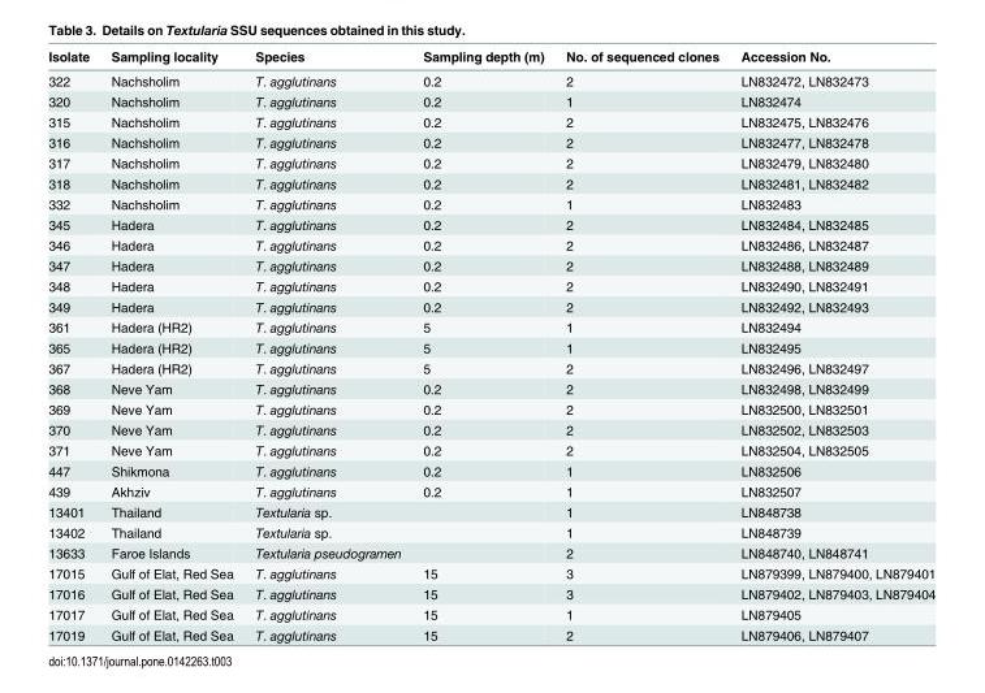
<table><thead><tr><td>Isolate</td><td>Sampling locality</td><td>Species</td><td>Sampling depth (m)</td><td>No. of sequenced clones</td><td>Accession No.</td></tr></thead><tbody><tr><td>322</td><td>Nachsholim</td><td>T. agglutinans</td><td>0.2</td><td>2</td><td>LN832472, LN832473</td></tr><tr><td>320</td><td>Nachsholim</td><td>T. agglutinans</td><td>0.2</td><td>1</td><td>LN832474</td></tr><tr><td>315</td><td>Nachsholim</td><td>T. agglutinans</td><td>0.2</td><td>2</td><td>LN832475, LN832476</td></tr><tr><td>316</td><td>Nachsholim</td><td>T. agglutinans</td><td>0.2</td><td>2</td><td>LN832477, LN832478</td></tr><tr><td>317</td><td>Nachsholim</td><td>T. agglutinans</td><td>0.2</td><td>2</td><td>LN832479, LN832480</td></tr><tr><td>318</td><td>Nachsholim</td><td>T. agglutinans</td><td>0.2</td><td>2</td><td>LN832481, LN832482</td></tr><tr><td>332</td><td>Nachsholim</td><td>T. agglutinans</td><td>0.2</td><td>1</td><td>LN832483</td></tr><tr><td>345</td><td>Hadera</td><td>T. agglutinans</td><td>0.2</td><td>2</td><td>LN832484, LN832485</td></tr><tr><td>346</td><td>Hadera</td><td>T. agglutinans</td><td>0.2</td><td>2</td><td>LN832486, LN832487</td></tr><tr><td>347</td><td>Hadera</td><td>T. agglutinans</td><td>0.2</td><td>2</td><td>LN832488, LN832489</td></tr><tr><td>348</td><td>Hadera</td><td>T. agglutinans</td><td>0.2</td><td>2</td><td>LN832490, LN832491</td></tr><tr><td>349</td><td>Hadera</td><td>T. agglutinans</td><td>0.2</td><td>2</td><td>LN832492, LN832493</td></tr><tr><td>361</td><td>Hadera (HR2)</td><td>T. agglutinans</td><td>5</td><td>1</td><td>LN832494</td></tr><tr><td>365</td><td>Hadera (HR2)</td><td>T. agglutinans</td><td>5</td><td>1</td><td>LN832495</td></tr><tr><td>367</td><td>Hadera (HR2)</td><td>T. agglutinans</td><td>5</td><td>2</td><td>LN832496, LN832497</td></tr><tr><td>368</td><td>Neve Yam</td><td>T. agglutinans</td><td>0.2</td><td>2</td><td>LN832498, LN832499</td></tr><tr><td>369</td><td>Neve Yam</td><td>T. agglutinans</td><td>0.2</td><td>2</td><td>LN832500, LN832501</td></tr><tr><td>370</td><td>Neve Yam</td><td>T. agglutinans</td><td>0.2</td><td>2</td><td>LN832502, LN832503</td></tr><tr><td>371</td><td>Neve Yam</td><td>T. agglutinans</td><td>0.2</td><td>2</td><td>LN832504, LN832505</td></tr><tr><td>447</td><td>Shikmona</td><td>T. agglutinans</td><td>0.2</td><td>1</td><td>LN832506</td></tr><tr><td>439</td><td>Akhziv</td><td>T. agglutinans</td><td>0.2</td><td>1</td><td>LN832507</td></tr><tr><td>13401</td><td>Thailand</td><td>Textularia sp.</td><td></td><td>1</td><td>LN848738</td></tr><tr><td>13402</td><td>Thailand</td><td>Textularia sp.</td><td></td><td>1</td><td>LN848739</td></tr><tr><td>13633</td><td>Faroe Islands</td><td>Textularia pseudogramen</td><td></td><td>2</td><td>LN848740, LN848741</td></tr><tr><td>17015</td><td>Gulf of Elat, Red Sea</td><td>T. agglutinans</td><td>15</td><td>3</td><td>LN879399, LN879400, LN879401</td></tr><tr><td>17016</td><td>Gulf of Elat, Red Sea</td><td>T. agglutinans</td><td>15</td><td>3</td><td>LN879402, LN879403, LN879404</td></tr><tr><td>17017</td><td>Gulf of Elat, Red Sea</td><td>T. agglutinans</td><td>15</td><td>1</td><td>LN879405</td></tr><tr><td>17019</td><td>Gulf of Elat, Red Sea</td><td>T. agglutinans</td><td>15</td><td>2</td><td>LN879406, LN879407</td></tr></tbody></table>